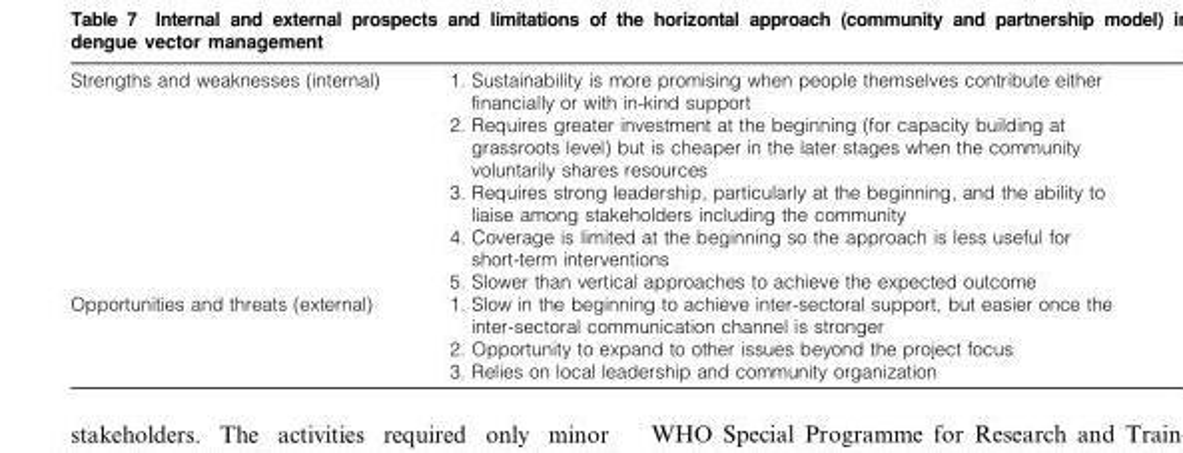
<table><tbody><tr><td rowspan="5">Strengths and weaknesses (internal)</td><td>1. Sustainability is more promising when people themselves contribute either financially or with in-kind support</td></tr><tr><td>2. Requires greater investment at the beginning (for capacity building at grassroots level) but is cheaper in the later stages when the community voluntarily shares resources</td></tr><tr><td>3. Requires strong leadership, particularly at the beginning, and the ability to liaise among stakeholders including the community</td></tr><tr><td>4. Coverage is limited at the beginning so the approach is less useful for short-term interventions</td></tr><tr><td>5. Slower than vertical approaches to achieve the expected outcome</td></tr><tr><td rowspan="3">Opportunities and threats (external)</td><td>1. Slow in the beginning to achieve inter-sectoral support, but easier once the inter-sectoral communication channel is stronger</td></tr><tr><td>2. Opportunity to expand to other issues beyond the project focus</td></tr><tr><td>3. Relies on local leadership and community organization</td></tr></tbody></table>